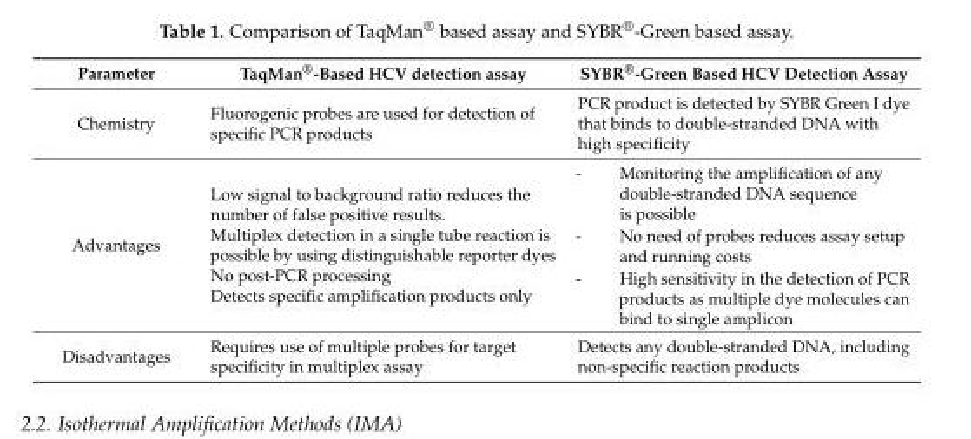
<table><thead><tr><td>Parameter</td><td>TaqMan<sup>®</sup>-Based HCV detection assay</td><td>SYBR<sup>®</sup>-Green Based HCV Detection Assay</td></tr></thead><tbody><tr><td>Chemistry</td><td>Fluorogenic probes are used for detection of specific PCR products</td><td>PCR product is detected by SYBR Green I dye that binds to double-stranded DNA with high specificity</td></tr><tr><td>Advantages</td><td>Low signal to background ratio reduces the number of false positive results. Multiplex detection in a single tube reaction is possible by using distinguishable reporter dyes No post-PCR processing Detects specific amplification products only</td><td>- Monitoring the amplification of any double-stranded DNA sequence is possible - No need of probes reduces assay setup and running costs - High sensitivity in the detection of PCR products as multiple dye molecules can bind to single amplicon</td></tr><tr><td>Disadvantages</td><td>Requires use of multiple probes for target specificity in multiplex assay</td><td>Detects any double-stranded DNA, including non-specific reaction products</td></tr></tbody></table>